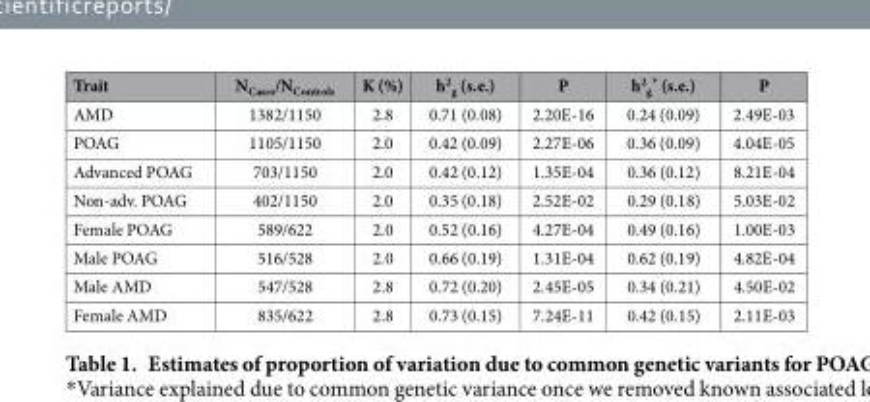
<table><thead><tr><td>Trait</td><td>N<sub>Cases</sub>/N<sub>Controls</sub></td><td>K (%)</td><td>h<sup>2</sup> <sub>g</sub> (s.e.)</td><td>P</td><td>h<sup>2</sup> <sub>g</sub> * (s.e.)</td><td>P</td></tr></thead><tbody><tr><td>AMD</td><td>1382/1150</td><td>2.8</td><td>0.71 (0.08)</td><td>2.20E-16</td><td>0.24 (0.09)</td><td>2.49E-03</td></tr><tr><td>POAG</td><td>1105/1150</td><td>2.0</td><td>0.42 (0.09)</td><td>2.27E-06</td><td>0.36 (0.09)</td><td>4.04E-05</td></tr><tr><td>Advanced POAG</td><td>703/1150</td><td>2.0</td><td>0.42 (0.12)</td><td>1.35E-04</td><td>0.36 (0.12)</td><td>8.21E-04</td></tr><tr><td>Non-adv. POAG</td><td>402/1150</td><td>2.0</td><td>0.35 (0.18)</td><td>2.52E-02</td><td>0.29 (0.18)</td><td>5.03E-02</td></tr><tr><td>Female POAG</td><td>589/622</td><td>2.0</td><td>0.52 (0.16)</td><td>4.27E-04</td><td>0.49 (0.16)</td><td>1.00E-03</td></tr><tr><td>Male POAG</td><td>516/528</td><td>2.0</td><td>0.66 (0.19)</td><td>1.31E-04</td><td>0.62 (0.19)</td><td>4.82E-04</td></tr><tr><td>Male AMD</td><td>547/528</td><td>2.8</td><td>0.72 (0.20)</td><td>2.45E-05</td><td>0.34 (0.21)</td><td>4.50E-02</td></tr><tr><td>Female AMD</td><td>835/622</td><td>2.8</td><td>0.73 (0.15)</td><td>7.24E-11</td><td>0.42 (0.15)</td><td>2.11E-03</td></tr></tbody></table>